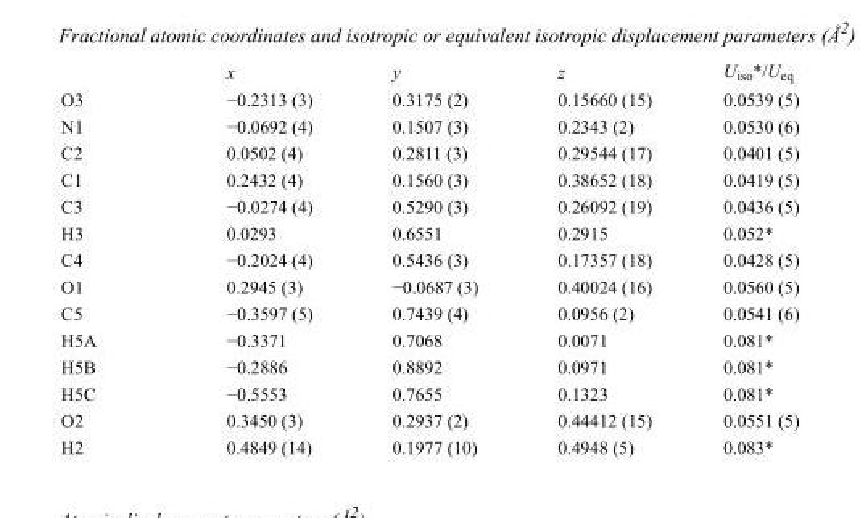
<table><thead><tr><td></td><td>x</td><td>y</td><td>z</td><td>U<sub>iso</sub>*/U<sub>eq</sub></td></tr></thead><tbody><tr><td>O3</td><td>−0.2313 (3)</td><td>0.3175 (2)</td><td>0.15660 (15)</td><td>0.0539 (5)</td></tr><tr><td>N1</td><td>−0.0692 (4)</td><td>0.1507 (3)</td><td>0.2343 (2)</td><td>0.0530 (6)</td></tr><tr><td>C2</td><td>0.0502 (4)</td><td>0.2811 (3)</td><td>0.29544 (17)</td><td>0.0401 (5)</td></tr><tr><td>C1</td><td>0.2432 (4)</td><td>0.1560 (3)</td><td>0.38652 (18)</td><td>0.0419 (5)</td></tr><tr><td>C3</td><td>−0.0274 (4)</td><td>0.5290 (3)</td><td>0.26092 (19)</td><td>0.0436 (5)</td></tr><tr><td>H3</td><td>0.0293</td><td>0.6551</td><td>0.2915</td><td>0.052*</td></tr><tr><td>C4</td><td>−0.2024 (4)</td><td>0.5436 (3)</td><td>0.17357 (18)</td><td>0.0428 (5)</td></tr><tr><td>O1</td><td>0.2945 (3)</td><td>−0.0687 (3)</td><td>0.40024 (16)</td><td>0.0560 (5)</td></tr><tr><td>C5</td><td>−0.3597 (5)</td><td>0.7439 (4)</td><td>0.0956 (2)</td><td>0.0541 (6)</td></tr><tr><td>H5A</td><td>−0.3371</td><td>0.7068</td><td>0.0071</td><td>0.081*</td></tr><tr><td>H5B</td><td>−0.2886</td><td>0.8892</td><td>0.0971</td><td>0.081*</td></tr><tr><td>H5C</td><td>−0.5553</td><td>0.7655</td><td>0.1323</td><td>0.081*</td></tr><tr><td>O2</td><td>0.3450 (3)</td><td>0.2937 (2)</td><td>0.44412 (15)</td><td>0.0551 (5)</td></tr><tr><td>H2</td><td>0.4849 (14)</td><td>0.1977 (10)</td><td>0.4948 (5)</td><td>0.083*</td></tr></tbody></table>